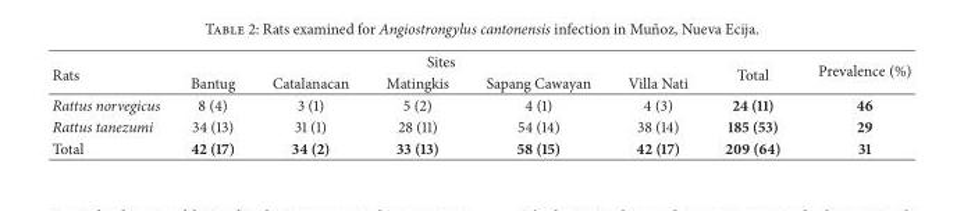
<table><thead><tr><td rowspan="2">Rats</td><td colspan="5">Sites</td><td rowspan="2">Total</td><td rowspan="2">Prevalence (%)</td></tr><tr><td>Bantug</td><td>Catalanacan</td><td>Matingkis</td><td>Sapang Cawayan</td><td>Villa Nati</td></tr></thead><tbody><tr><td>Rattus norvegicus</td><td>8 (4)</td><td>3 (1)</td><td>5 (2)</td><td>4 (1)</td><td>4 (3)</td><td>24 (11)</td><td>46</td></tr><tr><td>Rattus tanezumi</td><td>34 (13)</td><td>31 (1)</td><td>28 (11)</td><td>54 (14)</td><td>38 (14)</td><td>185 (53)</td><td>29</td></tr><tr><td>Total</td><td>42 (17)</td><td>34 (2)</td><td>33 (13)</td><td>58 (15)</td><td>42 (17)</td><td>209 (64)</td><td>31</td></tr></tbody></table>